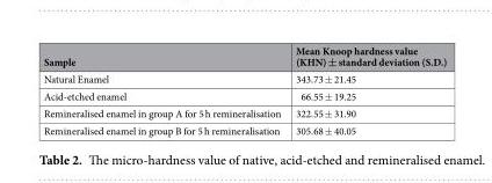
<table><thead><tr><td>Sample</td><td>Mean Knoop hardness value (KHN) ± standard deviation (S.D.)</td></tr></thead><tbody><tr><td>Natural Enamel</td><td>343.73 ± 21.45</td></tr><tr><td>Acid-etched enamel</td><td>66.55 ± 19.25</td></tr><tr><td>Remineralised enamel in group A for 5 h remineralisation</td><td>322.55 ± 31.90</td></tr><tr><td>Remineralised enamel in group B for 5 h remineralisation</td><td>305.68 ± 40.05</td></tr></tbody></table>